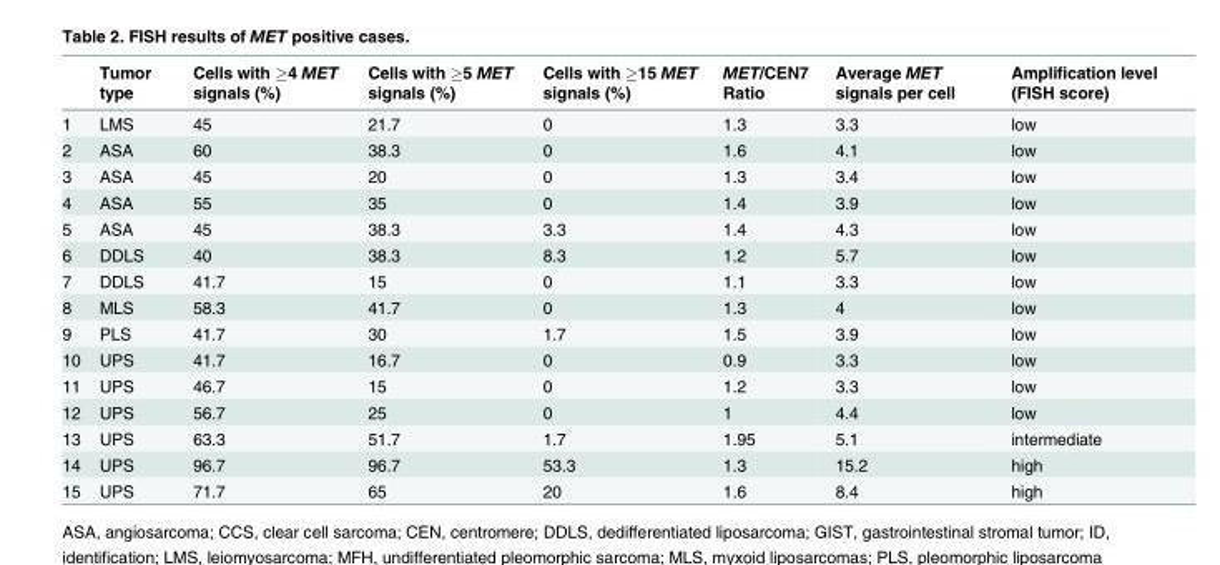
<table><thead><tr><td></td><td>Tumor type</td><td>Cells with ≥4 MET signals (%)</td><td>Cells with ≥5 MET signals (%)</td><td>Cells with ≥15 MET signals (%)</td><td>MET/CEN7 Ratio</td><td>Average MET signals per cell</td><td>Amplification level (FISH score)</td></tr></thead><tbody><tr><td>1</td><td>LMS</td><td>45</td><td>21.7</td><td>0</td><td>1.3</td><td>3.3</td><td>low</td></tr><tr><td>2</td><td>ASA</td><td>60</td><td>38.3</td><td>0</td><td>1.6</td><td>4.1</td><td>low</td></tr><tr><td>3</td><td>ASA</td><td>45</td><td>20</td><td>0</td><td>1.3</td><td>3.4</td><td>low</td></tr><tr><td>4</td><td>ASA</td><td>55</td><td>35</td><td>0</td><td>1.4</td><td>3.9</td><td>low</td></tr><tr><td>5</td><td>ASA</td><td>45</td><td>38.3</td><td>3.3</td><td>1.4</td><td>4.3</td><td>low</td></tr><tr><td>6</td><td>DDLS</td><td>40</td><td>38.3</td><td>8.3</td><td>1.2</td><td>5.7</td><td>low</td></tr><tr><td>7</td><td>DDLS</td><td>41.7</td><td>15</td><td>0</td><td>1.1</td><td>3.3</td><td>low</td></tr><tr><td>8</td><td>MLS</td><td>58.3</td><td>41.7</td><td>0</td><td>1.3</td><td>4</td><td>low</td></tr><tr><td>9</td><td>PLS</td><td>41.7</td><td>30</td><td>1.7</td><td>1.5</td><td>3.9</td><td>low</td></tr><tr><td>10</td><td>UPS</td><td>41.7</td><td>16.7</td><td>0</td><td>0.9</td><td>3.3</td><td>low</td></tr><tr><td>11</td><td>UPS</td><td>46.7</td><td>15</td><td>0</td><td>1.2</td><td>3.3</td><td>low</td></tr><tr><td>12</td><td>UPS</td><td>56.7</td><td>25</td><td>0</td><td>1</td><td>4.4</td><td>low</td></tr><tr><td>13</td><td>UPS</td><td>63.3</td><td>51.7</td><td>1.7</td><td>1.95</td><td>5.1</td><td>intermediate</td></tr><tr><td>14</td><td>UPS</td><td>96.7</td><td>96.7</td><td>53.3</td><td>1.3</td><td>15.2</td><td>high</td></tr><tr><td>15</td><td>UPS</td><td>71.7</td><td>65</td><td>20</td><td>1.6</td><td>8.4</td><td>high</td></tr></tbody></table>